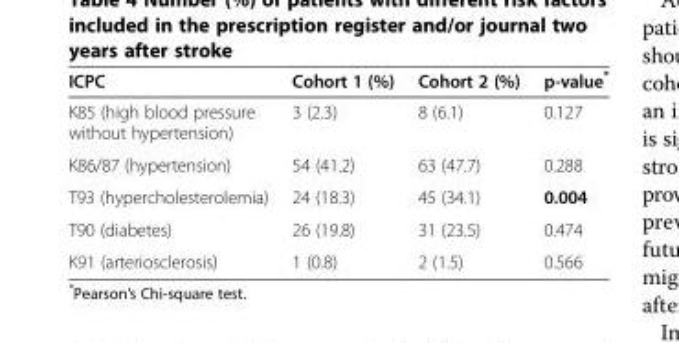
<table><thead><tr><td>ICPC</td><td>Cohort 1 (%)</td><td>Cohort 2 (%)</td><td>p-value*</td></tr></thead><tbody><tr><td>K85 (high blood pressure without hypertension)</td><td>3 (2.3)</td><td>8 (6.1)</td><td>0.127</td></tr><tr><td>K86/87 (hypertension)</td><td>54 (41.2)</td><td>63 (47.7)</td><td>0.288</td></tr><tr><td>T93 (hypercholesterolemia)</td><td>24 (18.3)</td><td>45 (34.1)</td><td>0.004</td></tr><tr><td>T90 (diabetes)</td><td>26 (19.8)</td><td>31 (23.5)</td><td>0.474</td></tr><tr><td>K91 (arteriosclerosis)</td><td>1 (0.8)</td><td>2 (1.5)</td><td>0.566</td></tr></tbody></table>